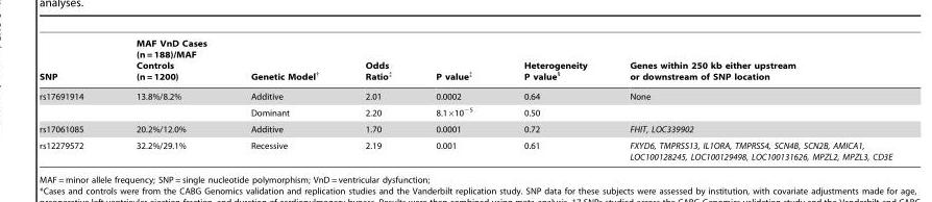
<table><thead><tr><td>SNP</td><td>MAF VnD Cases (n = 188)/MAF Controls (n = 1200)</td><td>Genetic Model†</td><td>Odds Ratio‡</td><td>P value‡</td><td>Heterogeneity P value§</td><td>Genes within 250 kb either upstream or downstream of SNP location</td></tr></thead><tbody><tr><td rowspan="2">rs17691914</td><td>13.8%/8.2%</td><td>Additive</td><td>2.01</td><td>0.0002</td><td>0.64</td><td>None</td></tr><tr><td></td><td>Dominant</td><td>2.20</td><td>8.1×10<sup>−5</sup></td><td>0.50</td><td></td></tr><tr><td>rs17061085</td><td>20.2%/12.0%</td><td>Additive</td><td>1.70</td><td>0.0001</td><td>0.72</td><td>FHIT, LOC339902</td></tr><tr><td>rs12279572</td><td>32.2%/29.1%</td><td>Recessive</td><td>2.19</td><td>0.001</td><td>0.61</td><td>FXYD6, TMPRSS13, IL1ORA, TMPRSS4, SCN4B, SCN2B, AMICA1, LOC100128245, LOC100129498, LOC100131626, MPZL2, MPZL3, CD3E</td></tr></tbody></table>